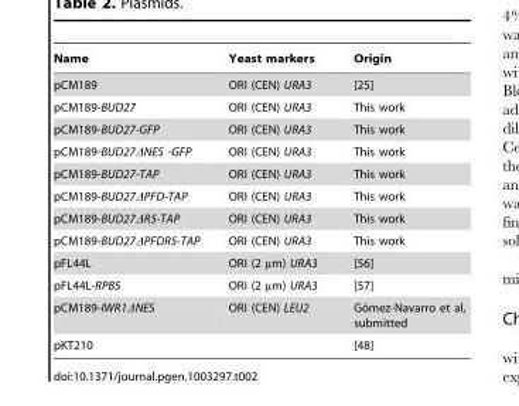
<table><thead><tr><td>Name</td><td>Yeast markers</td><td>Origin</td></tr></thead><tbody><tr><td>pCM189</td><td>ORI (CEN) URA3</td><td>[25]</td></tr><tr><td>pCM189-BUD27</td><td>ORI (CEN) URA3</td><td>This work</td></tr><tr><td>pCM189-BUD27-GFP</td><td>ORI (CEN) URA3</td><td>This work</td></tr><tr><td>pCM189-BUD27ΔNES -GFP</td><td>ORI (CEN) URA3</td><td>This work</td></tr><tr><td>pCM189-BUD27-TAP</td><td>ORI (CEN) URA3</td><td>This work</td></tr><tr><td>pCM189-BUD27ΔPFD-TAP</td><td>ORI (CEN) URA3</td><td>This work</td></tr><tr><td>pCM189-BUD27ΔR5-TAP</td><td>ORI (CEN) URA3</td><td>This work</td></tr><tr><td>pCM189-BUD27ΔPFDR5-TAP</td><td>ORI (CEN) URA3</td><td>This work</td></tr><tr><td>pFL44L</td><td>ORI (2 µm) URA3</td><td>[56]</td></tr><tr><td>pFL44L-RPB5</td><td>ORI (2 µm) URA3</td><td>[57]</td></tr><tr><td>pCM189-IWR1ΔNES</td><td>ORI (CEN) LEU2</td><td>Go´mez-Navarro et al, submitted</td></tr><tr><td>pKT210</td><td></td><td>[48]</td></tr></tbody></table>